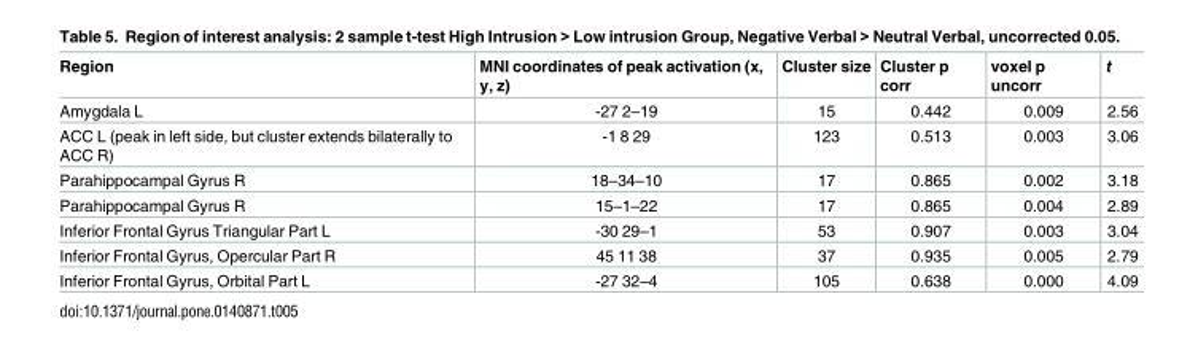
<table><thead><tr><td>Region</td><td>MNI coordinates of peak activation (x, y, z)</td><td>Cluster size</td><td>Cluster p corr</td><td>voxel p uncorr</td><td>t</td></tr></thead><tbody><tr><td>Amygdala L</td><td>-27 2–19</td><td>15</td><td>0.442</td><td>0.009</td><td>2.56</td></tr><tr><td>ACC L (peak in left side, but cluster extends bilaterally to ACC R)</td><td>-1 8 29</td><td>123</td><td>0.513</td><td>0.003</td><td>3.06</td></tr><tr><td>Parahippocampal Gyrus R</td><td>18–34–10</td><td>17</td><td>0.865</td><td>0.002</td><td>3.18</td></tr><tr><td>Parahippocampal Gyrus R</td><td>15–1–22</td><td>17</td><td>0.865</td><td>0.004</td><td>2.89</td></tr><tr><td>Inferior Frontal Gyrus Triangular Part L</td><td>-30 29–1</td><td>53</td><td>0.907</td><td>0.003</td><td>3.04</td></tr><tr><td>Inferior Frontal Gyrus, Opercular Part R</td><td>45 11 38</td><td>37</td><td>0.935</td><td>0.005</td><td>2.79</td></tr><tr><td>Inferior Frontal Gyrus, Orbital Part L</td><td>-27 32–4</td><td>105</td><td>0.638</td><td>0.000</td><td>4.09</td></tr></tbody></table>